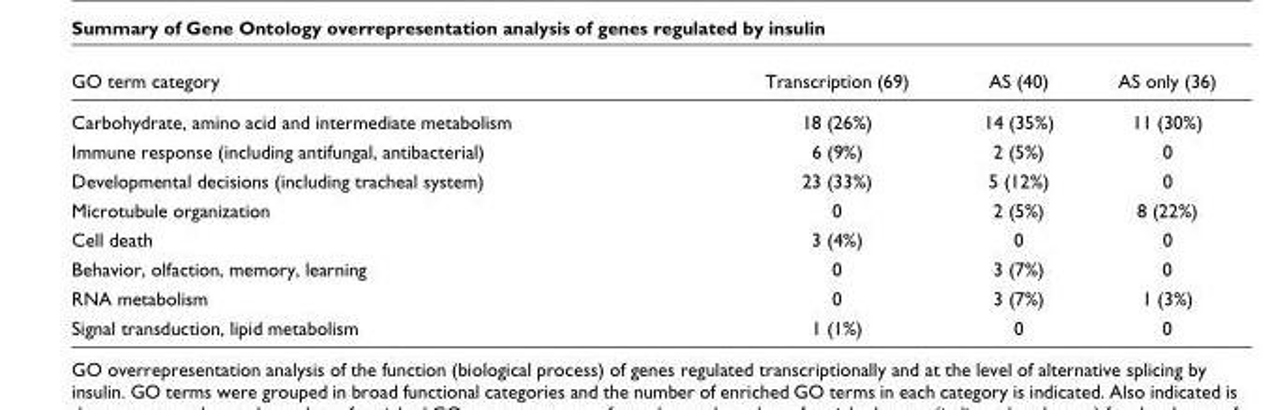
<table><thead><tr><td>GO term category</td><td>Transcription (69)</td><td>AS (40)</td><td>AS only (36)</td></tr></thead><tbody><tr><td>Carbohydrate, amino acid and intermediate metabolism</td><td>18 (26%)</td><td>14 (35%)</td><td>11 (30%)</td></tr><tr><td>Immune response (including antifungal, antibacterial)</td><td>6 (9%)</td><td>2 (5%)</td><td>0</td></tr><tr><td>Developmental decisions (including tracheal system)</td><td>23 (33%)</td><td>5 (12%)</td><td>0</td></tr><tr><td>Microtubule organization</td><td>0</td><td>2 (5%)</td><td>8 (22%)</td></tr><tr><td>Cell death</td><td>3 (4%)</td><td>0</td><td>0</td></tr><tr><td>Behavior, olfaction, memory, learning</td><td>0</td><td>3 (7%)</td><td>0</td></tr><tr><td>RNA metabolism</td><td>0</td><td>3 (7%)</td><td>1 (3%)</td></tr><tr><td>Signal transduction, lipid metabolism</td><td>1 (1%)</td><td>0</td><td>0</td></tr></tbody></table>